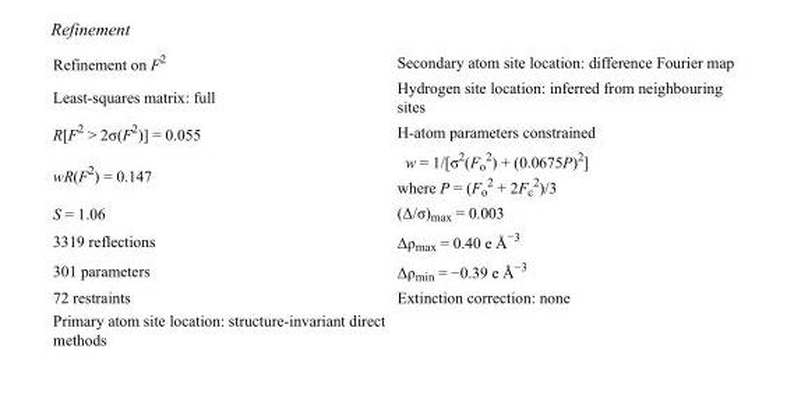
<table><tbody><tr><td>Refinement on F<sup>2</sup></td><td>Secondary atom site location: difference Fourier map</td></tr><tr><td>Least-squares matrix: full</td><td>Hydrogen site location: inferred from neighbouring sites</td></tr><tr><td>R[F<sup>2</sup> &gt; 2σ(F<sup>2</sup>)] = 0.055</td><td>H-atom parameters constrained</td></tr><tr><td>wR(F<sup>2</sup>) = 0.147</td><td>w = 1/[σ<sup>2</sup>(F<sub>o</sub> <sup>2</sup>) + (0.0675P)<sup>2</sup>] where P = (F<sub>o</sub> <sup>2</sup> + 2F<sub>c</sub> <sup>2</sup>)/3</td></tr><tr><td>S = 1.06</td><td>(Δ/σ)<sub>max</sub> = 0.003</td></tr><tr><td>3319 reflections</td><td>Δρ<sub>max</sub> = 0.40 e Å<sup>−3</sup></td></tr><tr><td>301 parameters</td><td>Δρ<sub>min</sub> = −0.39 e Å<sup>−3</sup></td></tr><tr><td>72 restraints</td><td>Extinction correction: none</td></tr><tr><td>Primary atom site location: structure-invariant direct methods</td><td></td></tr></tbody></table>